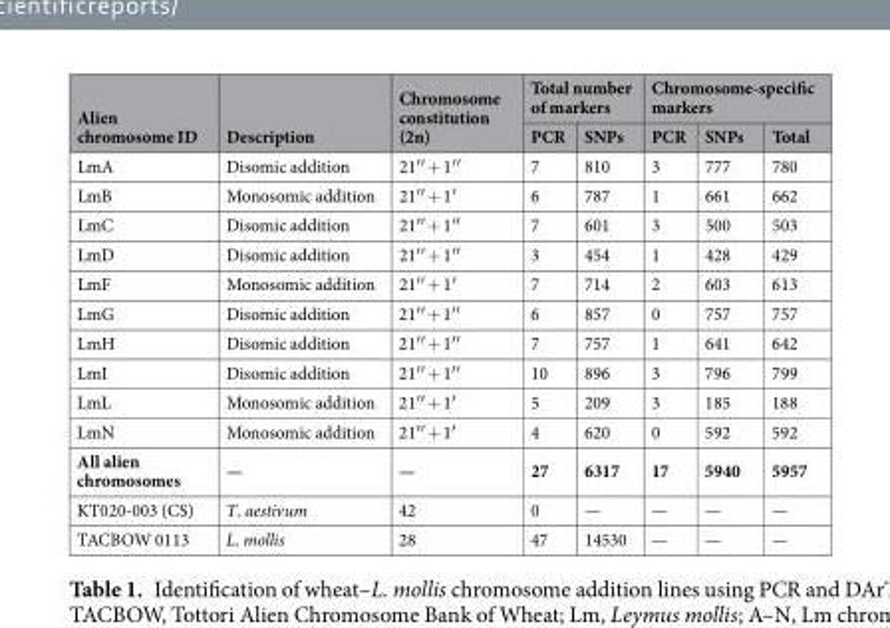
<table><thead><tr><td rowspan="2">Alien chromosome ID</td><td rowspan="2">Description</td><td rowspan="2">Chromosome constitution (2n)</td><td colspan="2">Total number of markers</td><td colspan="3">Chromosome-specific markers</td></tr><tr><td>PCR</td><td>SNPs</td><td>PCR</td><td>SNPs</td><td>Total</td></tr></thead><tbody><tr><td>LmA</td><td>Disomic addition</td><td>21′′ + 1′′</td><td>7</td><td>810</td><td>3</td><td>777</td><td>780</td></tr><tr><td>LmB</td><td>Monosomic addition</td><td>21′′ + 1′</td><td>6</td><td>787</td><td>1</td><td>661</td><td>662</td></tr><tr><td>LmC</td><td>Disomic addition</td><td>21′′ + 1′′</td><td>7</td><td>601</td><td>3</td><td>500</td><td>503</td></tr><tr><td>LmD</td><td>Disomic addition</td><td>21′′ + 1′′</td><td>3</td><td>454</td><td>1</td><td>428</td><td>429</td></tr><tr><td>LmF</td><td>Monosomic addition</td><td>21′′ + 1′</td><td>7</td><td>714</td><td>2</td><td>603</td><td>613</td></tr><tr><td>LmG</td><td>Disomic addition</td><td>21′′ + 1′′</td><td>6</td><td>857</td><td>0</td><td>757</td><td>757</td></tr><tr><td>LmH</td><td>Disomic addition</td><td>21′′ + 1′′</td><td>7</td><td>757</td><td>1</td><td>641</td><td>642</td></tr><tr><td>LmI</td><td>Disomic addition</td><td>21′′ + 1′′</td><td>10</td><td>896</td><td>3</td><td>796</td><td>799</td></tr><tr><td>LmL</td><td>Monosomic addition</td><td>21′′ + 1′</td><td>5</td><td>209</td><td>3</td><td>185</td><td>188</td></tr><tr><td>LmN</td><td>Monosomic addition</td><td>21′′ + 1′</td><td>4</td><td>620</td><td>0</td><td>592</td><td>592</td></tr><tr><td>All alien chromosomes</td><td>—</td><td>—</td><td>27</td><td>6317</td><td>17</td><td>5940</td><td>5957</td></tr><tr><td>KT020-003 (CS)</td><td>T. aestivum</td><td>42</td><td>0</td><td>—</td><td>—</td><td>—</td><td>—</td></tr><tr><td>TACBOW 0113</td><td>L. mollis</td><td>28</td><td>47</td><td>14530</td><td>—</td><td>—</td><td>—</td></tr></tbody></table>